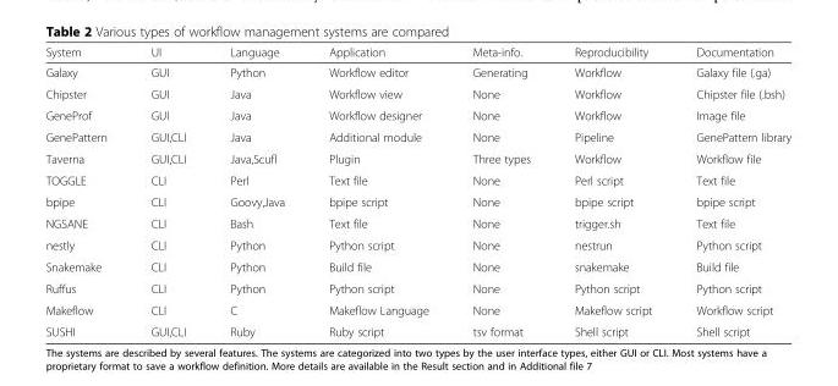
<table><thead><tr><td>System</td><td>UI</td><td>Language</td><td>Application</td><td>Meta-info.</td><td>Reproducibility</td><td>Documentation</td></tr></thead><tbody><tr><td>Galaxy</td><td>GUI</td><td>Python</td><td>Workflow editor</td><td>Generating</td><td>Workflow</td><td>Galaxy file (.ga)</td></tr><tr><td>Chipster</td><td>GUI</td><td>Java</td><td>Workflow view</td><td>None</td><td>Workflow</td><td>Chipster file (.bsh)</td></tr><tr><td>GeneProf</td><td>GUI</td><td>Java</td><td>Workflow designer</td><td>None</td><td>Workflow</td><td>Image file</td></tr><tr><td>GenePattern</td><td>GUI,CLI</td><td>Java</td><td>Additional module</td><td>None</td><td>Pipeline</td><td>GenePattern library</td></tr><tr><td>Taverna</td><td>GUI,CLI</td><td>Java,Scufl</td><td>Plugin</td><td>Three types</td><td>Workflow</td><td>Workflow file</td></tr><tr><td>TOGGLE</td><td>CLI</td><td>Perl</td><td>Text file</td><td>None</td><td>Perl script</td><td>Text file</td></tr><tr><td>bpipe</td><td>CLI</td><td>Goovy,Java</td><td>bpipe script</td><td>None</td><td>bpipe script</td><td>bpipe script</td></tr><tr><td>NGSANE</td><td>CLI</td><td>Bash</td><td>Text file</td><td>None</td><td>trigger.sh</td><td>Text file</td></tr><tr><td>nestly</td><td>CLI</td><td>Python</td><td>Python script</td><td>None</td><td>nestrun</td><td>Python script</td></tr><tr><td>Snakemake</td><td>CLI</td><td>Python</td><td>Build file</td><td>None</td><td>snakemake</td><td>Build file</td></tr><tr><td>Ruffus</td><td>CLI</td><td>Python</td><td>Python script</td><td>None</td><td>Python script</td><td>Python script</td></tr><tr><td>Makeflow</td><td>CLI</td><td>C</td><td>Makeflow Language</td><td>None</td><td>Makeflow script</td><td>Workflow script</td></tr><tr><td>SUSHI</td><td>GUI,CLI</td><td>Ruby</td><td>Ruby script</td><td>tsv format</td><td>Shell script</td><td>Shell script</td></tr></tbody></table>